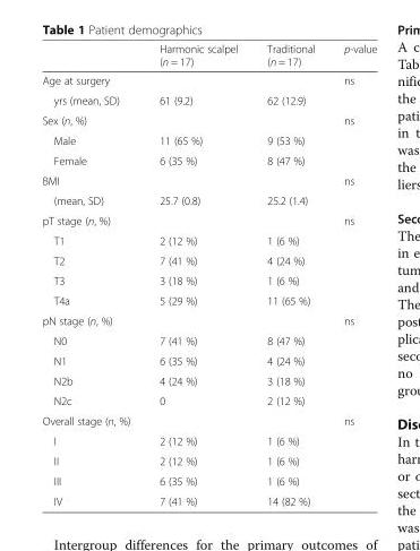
<table><thead><tr><td></td><td>Harmonic scalpel (n = 17)</td><td>Traditional (n = 17)</td><td>p-value</td></tr></thead><tbody><tr><td>Age at surgery</td><td></td><td></td><td>ns</td></tr><tr><td>yrs (mean, SD)</td><td>61 (9.2)</td><td>62 (12.9)</td><td></td></tr><tr><td>Sex (n, %)</td><td></td><td></td><td>ns</td></tr><tr><td>Male</td><td>11 (65 %)</td><td>9 (53 %)</td><td></td></tr><tr><td>Female</td><td>6 (35 %)</td><td>8 (47 %)</td><td></td></tr><tr><td>BMI</td><td></td><td></td><td>ns</td></tr><tr><td>(mean, SD)</td><td>25.7 (0.8)</td><td>25.2 (1.4)</td><td></td></tr><tr><td>pT stage (n, %)</td><td></td><td></td><td>ns</td></tr><tr><td>T1</td><td>2 (12 %)</td><td>1 (6 %)</td><td></td></tr><tr><td>T2</td><td>7 (41 %)</td><td>4 (24 %)</td><td></td></tr><tr><td>T3</td><td>3 (18 %)</td><td>1 (6 %)</td><td></td></tr><tr><td>T4a</td><td>5 (29 %)</td><td>11 (65 %)</td><td></td></tr><tr><td>pN stage (n, %)</td><td></td><td></td><td>ns</td></tr><tr><td>N0</td><td>7 (41 %)</td><td>8 (47 %)</td><td></td></tr><tr><td>N1</td><td>6 (35 %)</td><td>4 (24 %)</td><td></td></tr><tr><td>N2b</td><td>4 (24 %)</td><td>3 (18 %)</td><td></td></tr><tr><td>N2c</td><td>0</td><td>2 (12 %)</td><td></td></tr><tr><td>Overall stage (n, %)</td><td></td><td></td><td>ns</td></tr><tr><td>I</td><td>2 (12 %)</td><td>1 (6 %)</td><td></td></tr><tr><td>II</td><td>2 (12 %)</td><td>1 (6 %)</td><td></td></tr><tr><td>III</td><td>6 (35 %)</td><td>1 (6 %)</td><td></td></tr><tr><td>IV</td><td>7 (41 %)</td><td>14 (82 %)</td><td></td></tr></tbody></table>